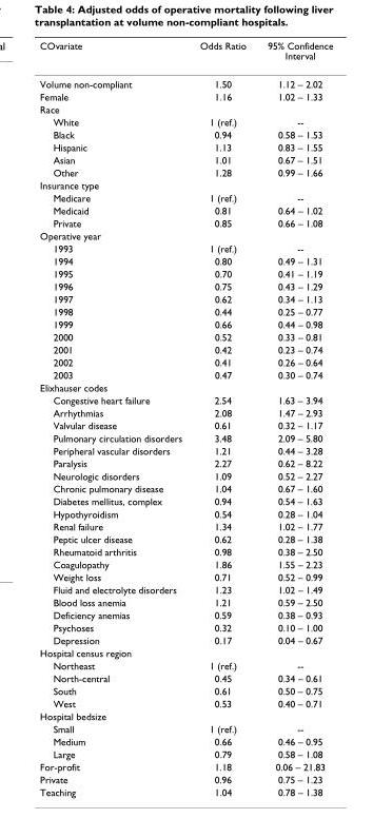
<table><thead><tr><td>COvariate</td><td>Odds Ratio</td><td>95% Confidence Interval</td></tr></thead><tbody><tr><td>Volume non-compliant</td><td>1.50</td><td>1.12 – 2.02</td></tr><tr><td>Female</td><td>1.16</td><td>1.02 – 1.33</td></tr><tr><td colspan="3">Race</td></tr><tr><td>White</td><td>1 (ref.)</td><td>--</td></tr><tr><td>Black</td><td>0.94</td><td>0.58 – 1.53</td></tr><tr><td>Hispanic</td><td>1.13</td><td>0.83 – 1.55</td></tr><tr><td>Asian</td><td>1.01</td><td>0.67 – 1.51</td></tr><tr><td>Other</td><td>1.28</td><td>0.99 – 1.66</td></tr><tr><td colspan="3">Insurance type</td></tr><tr><td>Medicare</td><td>1 (ref.)</td><td>--</td></tr><tr><td>Medicaid</td><td>0.81</td><td>0.64 – 1.02</td></tr><tr><td>Private</td><td>0.85</td><td>0.66 – 1.08</td></tr><tr><td colspan="3">Operative year</td></tr><tr><td>1993</td><td>1 (ref.)</td><td>--</td></tr><tr><td>1994</td><td>0.80</td><td>0.49 – 1.31</td></tr><tr><td>1995</td><td>0.70</td><td>0.41 – 1.19</td></tr><tr><td>1996</td><td>0.75</td><td>0.43 – 1.29</td></tr><tr><td>1997</td><td>0.62</td><td>0.34 – 1.13</td></tr><tr><td>1998</td><td>0.44</td><td>0.25 – 0.77</td></tr><tr><td>1999</td><td>0.66</td><td>0.44 – 0.98</td></tr><tr><td>2000</td><td>0.52</td><td>0.33 – 0.81</td></tr><tr><td>2001</td><td>0.42</td><td>0.23 – 0.74</td></tr><tr><td>2002</td><td>0.41</td><td>0.26 – 0.64</td></tr><tr><td>2003</td><td>0.47</td><td>0.30 – 0.74</td></tr><tr><td colspan="3">Elixhauser codes</td></tr><tr><td>Congestive heart failure</td><td>2.54</td><td>1.63 – 3.94</td></tr><tr><td>Arrhythmias</td><td>2.08</td><td>1.47 – 2.93</td></tr><tr><td>Valvular disease</td><td>0.61</td><td>0.32 – 1.17</td></tr><tr><td>Pulmonary circulation disorders</td><td>3.48</td><td>2.09 – 5.80</td></tr><tr><td>Peripheral vascular disorders</td><td>1.21</td><td>0.44 – 3.28</td></tr><tr><td>Paralysis</td><td>2.27</td><td>0.62 – 8.22</td></tr><tr><td>Neurologic disorders</td><td>1.09</td><td>0.52 – 2.27</td></tr><tr><td>Chronic pulmonary disease</td><td>1.04</td><td>0.67 – 1.60</td></tr><tr><td>Diabetes mellitus, complex</td><td>0.94</td><td>0.54 – 1.63</td></tr><tr><td>Hypothyroidism</td><td>0.54</td><td>0.28 – 1.04</td></tr><tr><td>Renal failure</td><td>1.34</td><td>1.02 – 1.77</td></tr><tr><td>Peptic ulcer disease</td><td>0.62</td><td>0.28 – 1.38</td></tr><tr><td>Rheumatoid arthritis</td><td>0.98</td><td>0.38 – 2.50</td></tr><tr><td>Coagulopathy</td><td>1.86</td><td>1.55 – 2.23</td></tr><tr><td>Weight loss</td><td>0.71</td><td>0.52 – 0.99</td></tr><tr><td>Fluid and electrolyte disorders</td><td>1.23</td><td>1.02 – 1.49</td></tr><tr><td>Blood loss anemia</td><td>1.21</td><td>0.59 – 2.50</td></tr><tr><td>Deficiency anemias</td><td>0.59</td><td>0.38 – 0.93</td></tr><tr><td>Psychoses</td><td>0.32</td><td>0.10 – 1.00</td></tr><tr><td>Depression</td><td>0.17</td><td>0.04 – 0.67</td></tr><tr><td colspan="3">Hospital census region</td></tr><tr><td>Northeast</td><td>1 (ref.)</td><td>--</td></tr><tr><td>North-central</td><td>0.45</td><td>0.34 – 0.61</td></tr><tr><td>South</td><td>0.61</td><td>0.50 – 0.75</td></tr><tr><td>West</td><td>0.53</td><td>0.40 – 0.71</td></tr><tr><td colspan="3">Hospital bedsize</td></tr><tr><td>Small</td><td>1 (ref.)</td><td>--</td></tr><tr><td>Medium</td><td>0.66</td><td>0.46 – 0.95</td></tr><tr><td>Large</td><td>0.79</td><td>0.58 – 1.08</td></tr><tr><td>For-profit</td><td>1.18</td><td>0.06 – 21.83</td></tr><tr><td>Private</td><td>0.96</td><td>0.75 – 1.23</td></tr><tr><td>Teaching</td><td>1.04</td><td>0.78 – 1.38</td></tr></tbody></table>